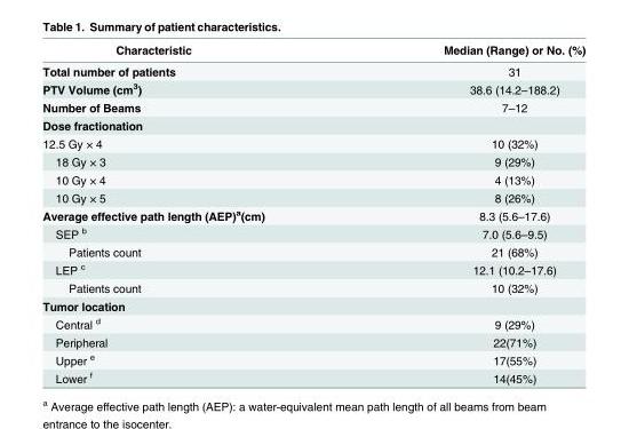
<table><thead><tr><td>Characteristic</td><td>Median (Range) or No. (%)</td></tr></thead><tbody><tr><td>Total number of patients</td><td>31</td></tr><tr><td>PTV Volume (cm<sup>3</sup>)</td><td>38.6 (14.2–188.2)</td></tr><tr><td>Number of Beams</td><td>7–12</td></tr><tr><td colspan="2">Dose fractionation</td></tr><tr><td>12.5 Gy × 4</td><td>10 (32%)</td></tr><tr><td>18 Gy × 3</td><td>9 (29%)</td></tr><tr><td>10 Gy × 4</td><td>4 (13%)</td></tr><tr><td>10 Gy × 5</td><td>8 (26%)</td></tr><tr><td>Average effective path length (AEP)<sup>a</sup>(cm)</td><td>8.3 (5.6–17.6)</td></tr><tr><td>SEP <sup>b</sup></td><td>7.0 (5.6–9.5)</td></tr><tr><td>Patients count</td><td>21 (68%)</td></tr><tr><td>LEP <sup>c</sup></td><td>12.1 (10.2–17.6)</td></tr><tr><td>Patients count</td><td>10 (32%)</td></tr><tr><td colspan="2">Tumor location</td></tr><tr><td>Central <sup>d</sup></td><td>9 (29%)</td></tr><tr><td>Peripheral</td><td>22(71%)</td></tr><tr><td>Upper <sup>e</sup></td><td>17(55%)</td></tr><tr><td>Lower <sup>f</sup></td><td>14(45%)</td></tr></tbody></table>